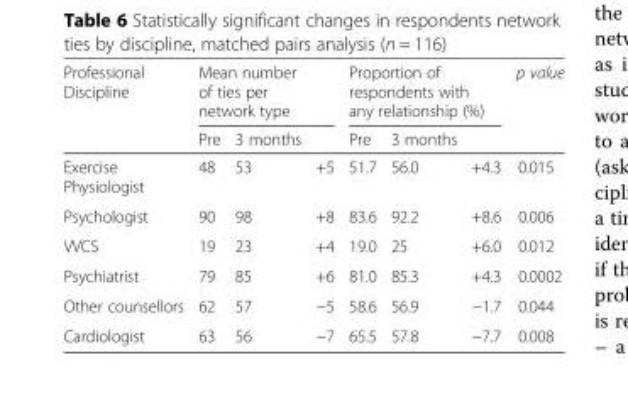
<table><thead><tr><td rowspan="2">Professional Discipline</td><td colspan="3">Mean number of ties per network type</td><td colspan="3">Proportion of respondents with any relationship (%)</td><td rowspan="2">p value</td></tr><tr><td>Pre</td><td>3 months</td><td></td><td>Pre</td><td>3 months</td><td></td></tr></thead><tbody><tr><td>Exercise Physiologist</td><td>48</td><td>53</td><td>+5</td><td>51.7</td><td>56.0</td><td>+4.3</td><td>0.015</td></tr><tr><td>Psychologist</td><td>90</td><td>98</td><td>+8</td><td>83.6</td><td>92.2</td><td>+8.6</td><td>0.006</td></tr><tr><td>VVCS</td><td>19</td><td>23</td><td>+4</td><td>19.0</td><td>25</td><td>+6.0</td><td>0.012</td></tr><tr><td>Psychiatrist</td><td>79</td><td>85</td><td>+6</td><td>81.0</td><td>85.3</td><td>+4.3</td><td>0.0002</td></tr><tr><td>Other counsellors</td><td>62</td><td>57</td><td>−5</td><td>58.6</td><td>56.9</td><td>−1.7</td><td>0.044</td></tr><tr><td>Cardiologist</td><td>63</td><td>56</td><td>−7</td><td>65.5</td><td>57.8</td><td>−7.7</td><td>0.008</td></tr></tbody></table>